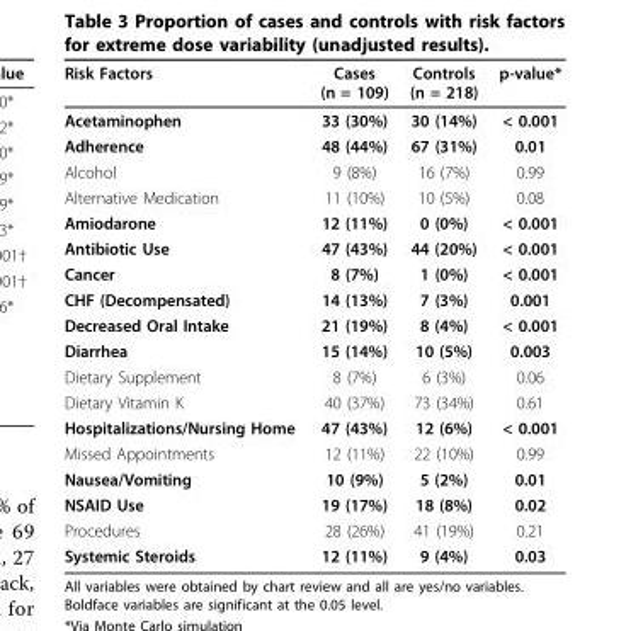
<table><thead><tr><td>Risk Factors</td><td>Cases (n = 109)</td><td>Controls (n = 218)</td><td>p-value*</td></tr></thead><tbody><tr><td>Acetaminophen</td><td>33 (30%)</td><td>30 (14%)</td><td>&lt; 0.001</td></tr><tr><td>Adherence</td><td>48 (44%)</td><td>67 (31%)</td><td>0.01</td></tr><tr><td>Alcohol</td><td>9 (8%)</td><td>16 (7%)</td><td>0.99</td></tr><tr><td>Alternative Medication</td><td>11 (10%)</td><td>10 (5%)</td><td>0.08</td></tr><tr><td>Amiodarone</td><td>12 (11%)</td><td>0 (0%)</td><td>&lt; 0.001</td></tr><tr><td>Antibiotic Use</td><td>47 (43%)</td><td>44 (20%)</td><td>&lt; 0.001</td></tr><tr><td>Cancer</td><td>8 (7%)</td><td>1 (0%)</td><td>&lt; 0.001</td></tr><tr><td>CHF (Decompensated)</td><td>14 (13%)</td><td>7 (3%)</td><td>0.001</td></tr><tr><td>Decreased Oral Intake</td><td>21 (19%)</td><td>8 (4%)</td><td>&lt; 0.001</td></tr><tr><td>Diarrhea</td><td>15 (14%)</td><td>10 (5%)</td><td>0.003</td></tr><tr><td>Dietary Supplement</td><td>8 (7%)</td><td>6 (3%)</td><td>0.06</td></tr><tr><td>Dietary Vitamin K</td><td>40 (37%)</td><td>73 (34%)</td><td>0.61</td></tr><tr><td>Hospitalizations/Nursing Home</td><td>47 (43%)</td><td>12 (6%)</td><td>&lt; 0.001</td></tr><tr><td>Missed Appointments</td><td>12 (11%)</td><td>22 (10%)</td><td>0.99</td></tr><tr><td>Nausea/Vomiting</td><td>10 (9%)</td><td>5 (2%)</td><td>0.01</td></tr><tr><td>NSAID Use</td><td>19 (17%)</td><td>18 (8%)</td><td>0.02</td></tr><tr><td>Procedures</td><td>28 (26%)</td><td>41 (19%)</td><td>0.21</td></tr><tr><td>Systemic Steroids</td><td>12 (11%)</td><td>9 (4%)</td><td>0.03</td></tr></tbody></table>